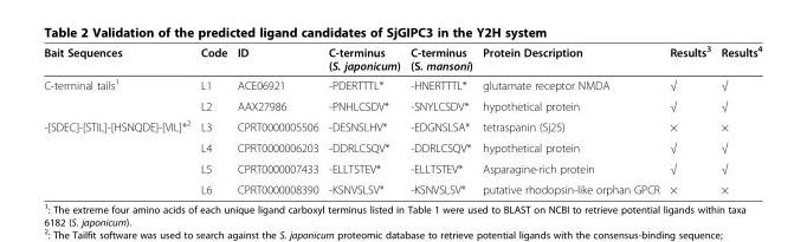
<table><thead><tr><td>Bait Sequences</td><td>Code</td><td>ID</td><td>C-terminus (S. japonicum)</td><td>C-terminus (S. mansoni)</td><td>Protein Description</td><td>Results<sup>3</sup></td><td>Results<sup>4</sup></td></tr></thead><tbody><tr><td rowspan="2">C-terminal tails<sup>1</sup></td><td>L1</td><td>ACE06921</td><td>-PDERTTTL*</td><td>-HNERTTTL*</td><td>glutamate receptor NMDA</td><td>√</td><td>√</td></tr><tr><td>L2</td><td>AAX27986</td><td>-PNHLCSDV*</td><td>-SNYLCSDV*</td><td>hypothetical protein</td><td>√</td><td>√</td></tr><tr><td rowspan="4">-[SDEC]-[STIL]-[HSNQDE]-[VIL]*<sup>2</sup></td><td>L3</td><td>CPRT0000005506</td><td>-DESNSLHV*</td><td>-EDGNSLSA*</td><td>tetraspanin (Sj25)</td><td>×</td><td>×</td></tr><tr><td>L4</td><td>CPRT0000006203</td><td>-DDRLCSQV*</td><td>-DDRLCSQV*</td><td>hypothetical protein</td><td>√</td><td>√</td></tr><tr><td>L5</td><td>CPRT0000007433</td><td>-ELLTSTEV*</td><td>-ELLTSTEV*</td><td>Asparagine-rich protein</td><td>√</td><td>√</td></tr><tr><td>L6</td><td>CPRT0000008390</td><td>-KSNVSLSV*</td><td>-KSNVSLSV*</td><td>putative rhodopsin-like orphan GPCR</td><td>×</td><td>×</td></tr></tbody></table>